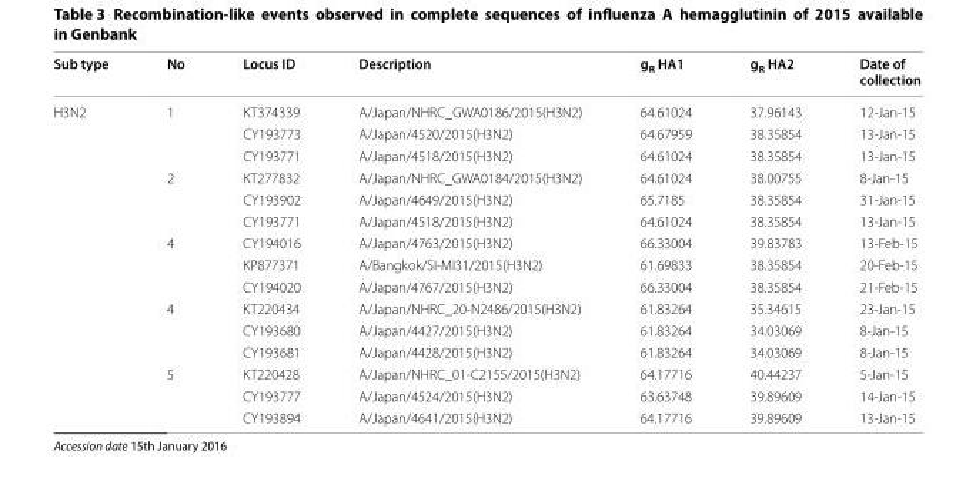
<table><thead><tr><td>Sub type</td><td>No</td><td>Locus ID</td><td>Description</td><td>g<sub>R</sub> HA1</td><td>g<sub>R</sub> HA2</td><td>Date of collection</td></tr></thead><tbody><tr><td rowspan="15">H3N2</td><td rowspan="3">1</td><td>KT374339</td><td>A/Japan/NHRC_GWA0186/2015(H3N2)</td><td>64.61024</td><td>37.96143</td><td>12-Jan-15</td></tr><tr><td>CY193773</td><td>A/Japan/4520/2015(H3N2)</td><td>64.67959</td><td>38.35854</td><td>13-Jan-15</td></tr><tr><td>CY193771</td><td>A/Japan/4518/2015(H3N2)</td><td>64.61024</td><td>38.35854</td><td>13-Jan-15</td></tr><tr><td rowspan="3">2</td><td>KT277832</td><td>A/Japan/NHRC_GWA0184/2015(H3N2)</td><td>64.61024</td><td>38.00755</td><td>8-Jan-15</td></tr><tr><td>CY193902</td><td>A/Japan/4649/2015(H3N2)</td><td>65.7185</td><td>38.35854</td><td>31-Jan-15</td></tr><tr><td>CY193771</td><td>A/Japan/4518/2015(H3N2)</td><td>64.61024</td><td>38.35854</td><td>13-Jan-15</td></tr><tr><td rowspan="3">4</td><td>CY194016</td><td>A/Japan/4763/2015(H3N2)</td><td>66.33004</td><td>39.83783</td><td>13-Feb-15</td></tr><tr><td>KP877371</td><td>A/Bangkok/SI-MI31/2015(H3N2)</td><td>61.69833</td><td>38.35854</td><td>20-Feb-15</td></tr><tr><td>CY194020</td><td>A/Japan/4767/2015(H3N2)</td><td>66.33004</td><td>38.35854</td><td>21-Feb-15</td></tr><tr><td rowspan="3">4</td><td>KT220434</td><td>A/Japan/NHRC_20-N2486/2015(H3N2)</td><td>61.83264</td><td>35.34615</td><td>23-Jan-15</td></tr><tr><td>CY193680</td><td>A/Japan/4427/2015(H3N2)</td><td>61.83264</td><td>34.03069</td><td>8-Jan-15</td></tr><tr><td>CY193681</td><td>A/Japan/4428/2015(H3N2)</td><td>61.83264</td><td>34.03069</td><td>8-Jan-15</td></tr><tr><td rowspan="3">5</td><td>KT220428</td><td>A/Japan/NHRC_01-C2155/2015(H3N2)</td><td>64.17716</td><td>40.44237</td><td>5-Jan-15</td></tr><tr><td>CY193777</td><td>A/Japan/4524/2015(H3N2)</td><td>63.63748</td><td>39.89609</td><td>14-Jan-15</td></tr><tr><td>CY193894</td><td>A/Japan/4641/2015(H3N2)</td><td>64.17716</td><td>39.89609</td><td>13-Jan-15</td></tr></tbody></table>